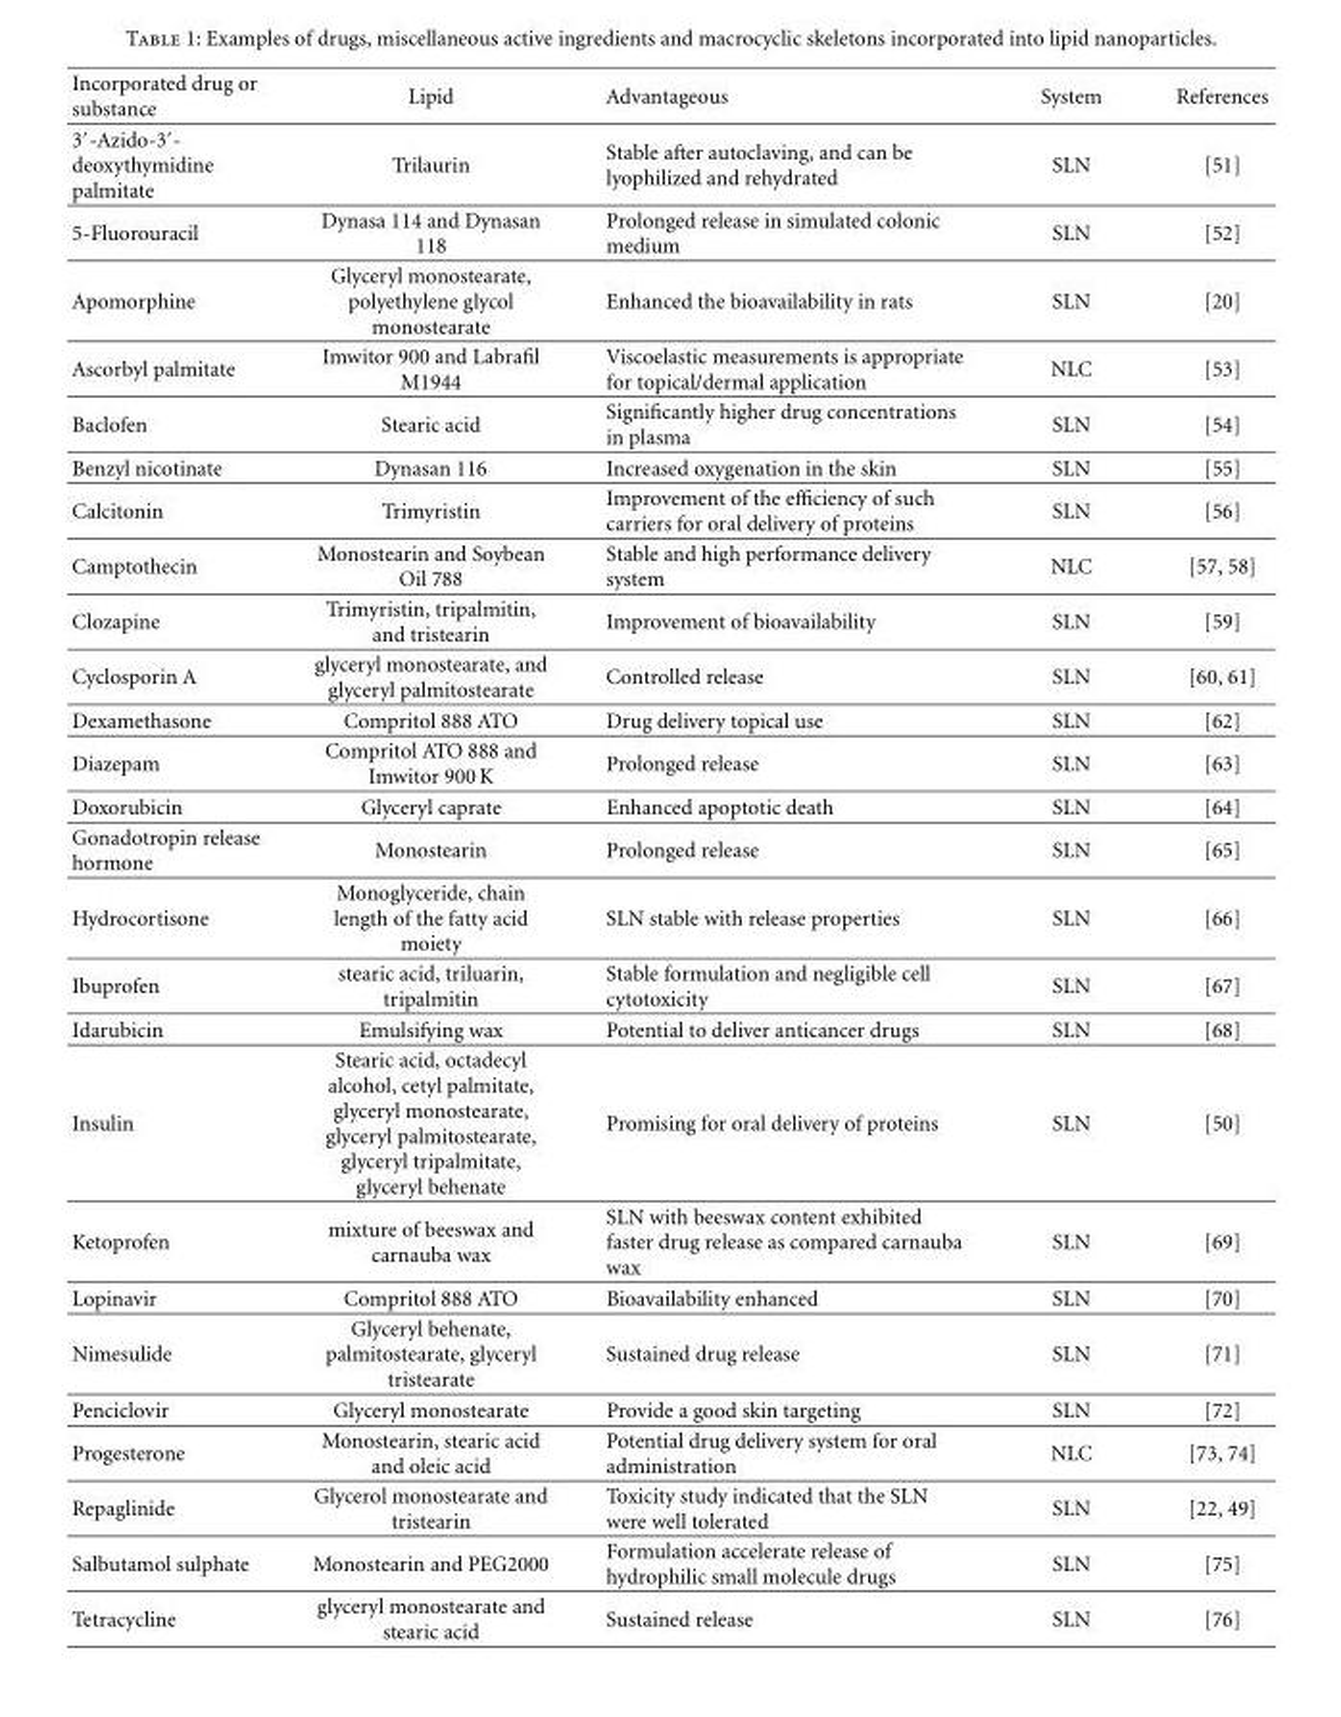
<table><thead><tr><td>Incorporated drug or substance</td><td>Lipid</td><td>Advantageous</td><td>System</td><td>References</td></tr></thead><tbody><tr><td>3′-Azido-3′- deoxythymidine palmitate</td><td>Trilaurin</td><td>Stable after autoclaving, and can be lyophilized and rehydrated</td><td>SLN</td><td>[51]</td></tr><tr><td>5-Fluorouracil</td><td>Dynasa 114 and Dynasan 118</td><td>Prolonged release in simulated colonic medium</td><td>SLN</td><td>[52]</td></tr><tr><td>Apomorphine</td><td>Glyceryl monostearate, polyethylene glycol monostearate</td><td>Enhanced the bioavailability in rats</td><td>SLN</td><td>[20]</td></tr><tr><td>Ascorbyl palmitate</td><td>Imwitor 900 and Labrafil M1944</td><td>Viscoelastic measurements is appropriate for topical/dermal application</td><td>NLC</td><td>[53]</td></tr><tr><td>Baclofen</td><td>Stearic acid</td><td>Significantly higher drug concentrations in plasma</td><td>SLN</td><td>[54]</td></tr><tr><td>Benzyl nicotinate</td><td>Dynasan 116</td><td>Increased oxygenation in the skin</td><td>SLN</td><td>[55]</td></tr><tr><td>Calcitonin</td><td>Trimyristin</td><td>Improvement of the efficiency of such carriers for oral delivery of proteins</td><td>SLN</td><td>[56]</td></tr><tr><td>Camptothecin</td><td>Monostearin and Soybean Oil 788</td><td>Stable and high performance delivery system</td><td>NLC</td><td>[57, 58]</td></tr><tr><td>Clozapine</td><td>Trimyristin, tripalmitin, and tristearin</td><td>Improvement of bioavailability</td><td>SLN</td><td>[59]</td></tr><tr><td>Cyclosporin A</td><td>glyceryl monostearate, and glyceryl palmitostearate</td><td>Controlled release</td><td>SLN</td><td>[60, 61]</td></tr><tr><td>Dexamethasone</td><td>Compritol 888 ATO</td><td>Drug delivery topical use</td><td>SLN</td><td>[62]</td></tr><tr><td>Diazepam</td><td>Compritol ATO 888 and Imwitor 900 K</td><td>Prolonged release</td><td>SLN</td><td>[63]</td></tr><tr><td>Doxorubicin</td><td>Glyceryl caprate</td><td>Enhanced apoptotic death</td><td>SLN</td><td>[64]</td></tr><tr><td>Gonadotropin release hormone</td><td>Monostearin</td><td>Prolonged release</td><td>SLN</td><td>[65]</td></tr><tr><td>Hydrocortisone</td><td>Monoglyceride, chain length of the fatty acid moiety</td><td>SLN stable with release properties</td><td>SLN</td><td>[66]</td></tr><tr><td>Ibuprofen</td><td>stearic acid, triluarin, tripalmitin</td><td>Stable formulation and negligible cell cytotoxicity</td><td>SLN</td><td>[67]</td></tr><tr><td>Idarubicin</td><td>Emulsifying wax</td><td>Potential to deliver anticancer drugs</td><td>SLN</td><td>[68]</td></tr><tr><td>Insulin</td><td>Stearic acid, octadecyl alcohol, cetyl palmitate, glyceryl monostearate, glyceryl palmitostearate, glyceryl tripalmitate, glyceryl behenate</td><td>Promising for oral delivery of proteins</td><td>SLN</td><td>[50]</td></tr><tr><td>Ketoprofen</td><td>mixture of beeswax and carnauba wax</td><td>SLN with beeswax content exhibited faster drug release as compared carnauba wax</td><td>SLN</td><td>[69]</td></tr><tr><td>Lopinavir</td><td>Compritol 888 ATO</td><td>Bioavailability enhanced</td><td>SLN</td><td>[70]</td></tr><tr><td>Nimesulide</td><td>Glyceryl behenate, palmitostearate, glyceryl tristearate</td><td>Sustained drug release</td><td>SLN</td><td>[71]</td></tr><tr><td>Penciclovir</td><td>Glyceryl monostearate</td><td>Provide a good skin targeting</td><td>SLN</td><td>[72]</td></tr><tr><td>Progesterone</td><td>Monostearin, stearic acid and oleic acid</td><td>Potential drug delivery system for oral administration</td><td>NLC</td><td>[73, 74]</td></tr><tr><td>Repaglinide</td><td>Glycerol monostearate and tristearin</td><td>Toxicity study indicated that the SLN were well tolerated</td><td>SLN</td><td>[22, 49]</td></tr><tr><td>Salbutamol sulphate</td><td>Monostearin and PEG2000</td><td>Formulation accelerate release of hydrophilic small molecule drugs</td><td>SLN</td><td>[75]</td></tr><tr><td>Tetracycline</td><td>glyceryl monostearate and stearic acid</td><td>Sustained release</td><td>SLN</td><td>[76]</td></tr></tbody></table>